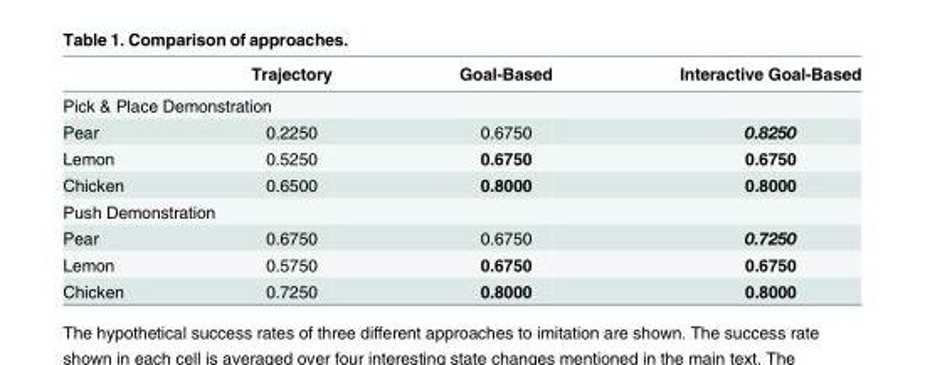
<table><thead><tr><td></td><td>Trajectory</td><td>Goal-Based</td><td>Interactive Goal-Based</td></tr></thead><tbody><tr><td colspan="4">Pick &amp; Place Demonstration</td></tr><tr><td>Pear</td><td>0.2250</td><td>0.6750</td><td>0.8250</td></tr><tr><td>Lemon</td><td>0.5250</td><td>0.6750</td><td>0.6750</td></tr><tr><td>Chicken</td><td>0.6500</td><td>0.8000</td><td>0.8000</td></tr><tr><td colspan="4">Push Demonstration</td></tr><tr><td>Pear</td><td>0.6750</td><td>0.6750</td><td>0.7250</td></tr><tr><td>Lemon</td><td>0.5750</td><td>0.6750</td><td>0.6750</td></tr><tr><td>Chicken</td><td>0.7250</td><td>0.8000</td><td>0.8000</td></tr></tbody></table>